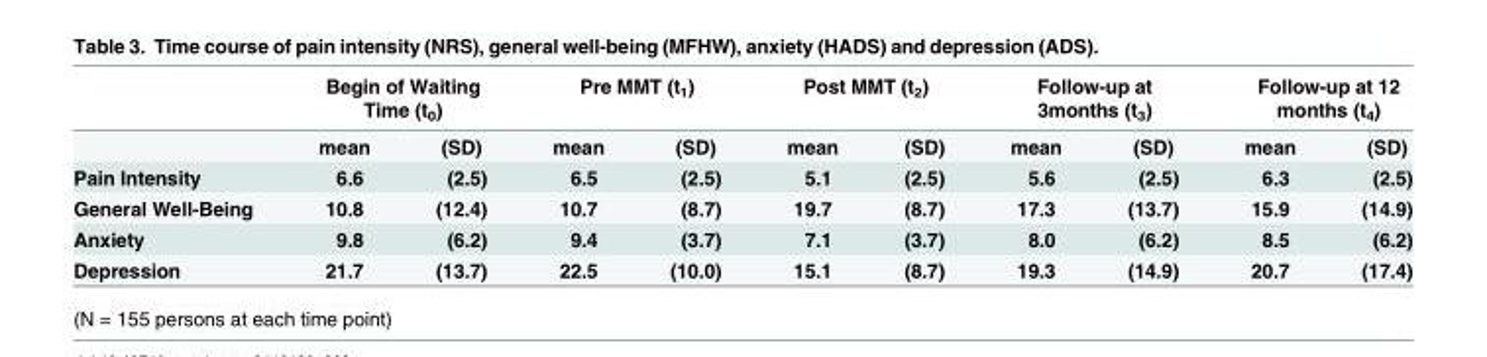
<table><thead><tr><td rowspan="2"></td><td colspan="2">Begin of Waiting Time (t<sub>0</sub>)</td><td colspan="2">Pre MMT (t<sub>1</sub>)</td><td colspan="2">Post MMT (t<sub>2</sub>)</td><td colspan="2">Follow-up at 3months (t<sub>3</sub>)</td><td colspan="2">Follow-up at 12 months (t<sub>4</sub>)</td></tr><tr><td>mean</td><td>(SD)</td><td>mean</td><td>(SD)</td><td>mean</td><td>(SD)</td><td>mean</td><td>(SD)</td><td>mean</td><td>(SD)</td></tr></thead><tbody><tr><td>Pain Intensity</td><td>6.6</td><td>(2.5)</td><td>6.5</td><td>(2.5)</td><td>5.1</td><td>(2.5)</td><td>5.6</td><td>(2.5)</td><td>6.3</td><td>(2.5)</td></tr><tr><td>General Well-Being</td><td>10.8</td><td>(12.4)</td><td>10.7</td><td>(8.7)</td><td>19.7</td><td>(8.7)</td><td>17.3</td><td>(13.7)</td><td>15.9</td><td>(14.9)</td></tr><tr><td>Anxiety</td><td>9.8</td><td>(6.2)</td><td>9.4</td><td>(3.7)</td><td>7.1</td><td>(3.7)</td><td>8.0</td><td>(6.2)</td><td>8.5</td><td>(6.2)</td></tr><tr><td>Depression</td><td>21.7</td><td>(13.7)</td><td>22.5</td><td>(10.0)</td><td>15.1</td><td>(8.7)</td><td>19.3</td><td>(14.9)</td><td>20.7</td><td>(17.4)</td></tr></tbody></table>